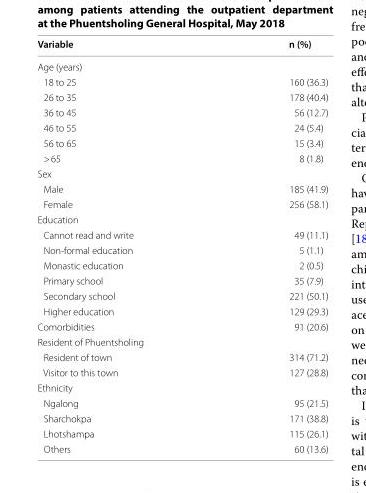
<table><thead><tr><td>Variable</td><td>n (%)</td></tr></thead><tbody><tr><td colspan="2">Age (years)</td></tr><tr><td>18 to 25</td><td>160 (36.3)</td></tr><tr><td>26 to 35</td><td>178 (40.4)</td></tr><tr><td>36 to 45</td><td>56 (12.7)</td></tr><tr><td>46 to 55</td><td>24 (5.4)</td></tr><tr><td>56 to 65</td><td>15 (3.4)</td></tr><tr><td>&gt; 65</td><td>8 (1.8)</td></tr><tr><td colspan="2">Sex</td></tr><tr><td>Male</td><td>185 (41.9)</td></tr><tr><td>Female</td><td>256 (58.1)</td></tr><tr><td colspan="2">Education</td></tr><tr><td>Cannot read and write</td><td>49 (11.1)</td></tr><tr><td>Non-formal education</td><td>5 (1.1)</td></tr><tr><td>Monastic education</td><td>2 (0.5)</td></tr><tr><td>Primary school</td><td>35 (7.9)</td></tr><tr><td>Secondary school</td><td>221 (50.1)</td></tr><tr><td>Higher education</td><td>129 (29.3)</td></tr><tr><td>Comorbidities</td><td>91 (20.6)</td></tr><tr><td colspan="2">Resident of Phuentsholing</td></tr><tr><td>Resident of town</td><td>314 (71.2)</td></tr><tr><td>Visitor to this town</td><td>127 (28.8)</td></tr><tr><td colspan="2">Ethnicity</td></tr><tr><td>Ngalong</td><td>95 (21.5)</td></tr><tr><td>Sharchokpa</td><td>171 (38.8)</td></tr><tr><td>Lhotshampa</td><td>115 (26.1)</td></tr><tr><td>Others</td><td>60 (13.6)</td></tr></tbody></table>